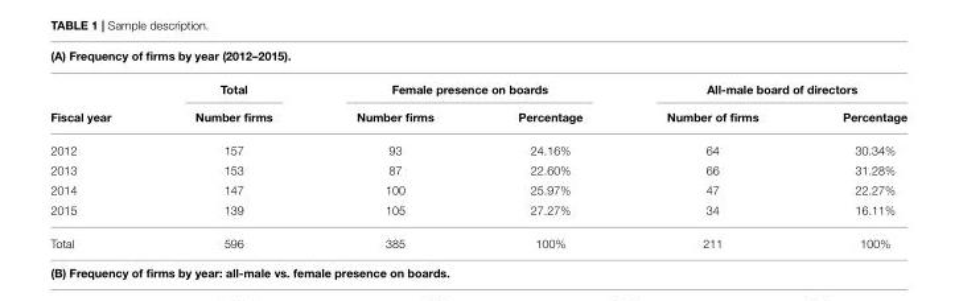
<table><thead><tr><td colspan="6">(A) Frequency of firms by year (2012–2015).</td></tr><tr><td rowspan="2">Fiscal year</td><td rowspan="2">Total Number firms</td><td colspan="2">Female presence on boards</td><td colspan="2">All-male board of directors</td></tr><tr><td>Number firms</td><td>Percentage</td><td>Number of firms</td><td>Percentage</td></tr></thead><tbody><tr><td>2012</td><td>157</td><td>93</td><td>24.16%</td><td>64</td><td>30.34%</td></tr><tr><td>2013</td><td>153</td><td>87</td><td>22.60%</td><td>66</td><td>31.28%</td></tr><tr><td>2014</td><td>147</td><td>100</td><td>25.97%</td><td>47</td><td>22.27%</td></tr><tr><td>2015</td><td>139</td><td>105</td><td>27.27%</td><td>34</td><td>16.11%</td></tr><tr><td>Total</td><td>596</td><td>385</td><td>100%</td><td>211</td><td>100%</td></tr></tbody></table>